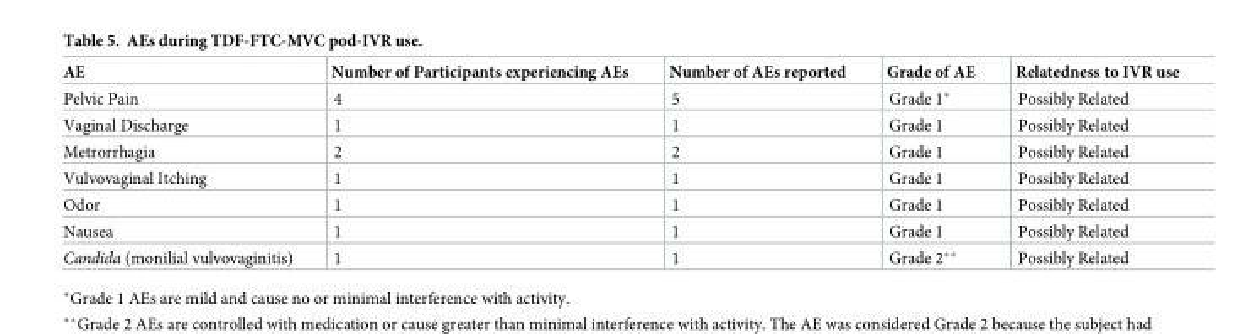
<table><thead><tr><td>AE</td><td>Number of Participants experiencing AEs</td><td>Number of AEs reported</td><td>Grade of AE</td><td>Relatedness to IVR use</td></tr></thead><tbody><tr><td>Pelvic Pain</td><td>4</td><td>5</td><td>Grade 1*</td><td>Possibly Related</td></tr><tr><td>Vaginal Discharge</td><td>1</td><td>1</td><td>Grade 1</td><td>Possibly Related</td></tr><tr><td>Metrorrhagia</td><td>2</td><td>2</td><td>Grade 1</td><td>Possibly Related</td></tr><tr><td>Vulvovaginal Itching</td><td>1</td><td>1</td><td>Grade 1</td><td>Possibly Related</td></tr><tr><td>Odor</td><td>1</td><td>1</td><td>Grade 1</td><td>Possibly Related</td></tr><tr><td>Nausea</td><td>1</td><td>1</td><td>Grade 1</td><td>Possibly Related</td></tr><tr><td>Candida (monilial vulvovaginitis)</td><td>1</td><td>1</td><td>Grade 2**</td><td>Possibly Related</td></tr></tbody></table>